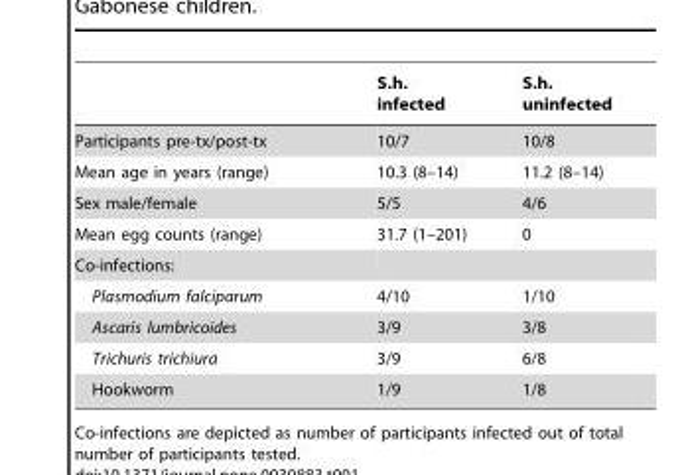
<table><thead><tr><td></td><td>S.h. infected</td><td>S.h. uninfected</td></tr></thead><tbody><tr><td>Participants pre-tx/post-tx</td><td>10/7</td><td>10/8</td></tr><tr><td>Mean age in years (range)</td><td>10.3 (8–14)</td><td>11.2 (8–14)</td></tr><tr><td>Sex male/female</td><td>5/5</td><td>4/6</td></tr><tr><td>Mean egg counts (range)</td><td>31.7 (1–201)</td><td>0</td></tr><tr><td colspan="3">Co-infections:</td></tr><tr><td>Plasmodium falciparum</td><td>4/10</td><td>1/10</td></tr><tr><td>Ascaris lumbricoides</td><td>3/9</td><td>3/8</td></tr><tr><td>Trichuris trichiura</td><td>3/9</td><td>6/8</td></tr><tr><td>Hookworm</td><td>1/9</td><td>1/8</td></tr></tbody></table>